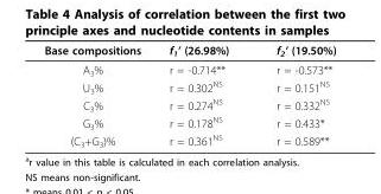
<table><thead><tr><td>Base compositions</td><td>f<sub>1</sub>’ (26.98%)</td><td>f<sub>2</sub>’ (19.50%)</td></tr></thead><tbody><tr><td>A<sub>3</sub>%</td><td>r = -0.714**</td><td>r = -0.573**</td></tr><tr><td>U<sub>3</sub>%</td><td>r = 0.302<sup>NS</sup></td><td>r = 0.151<sup>NS</sup></td></tr><tr><td>C<sub>3</sub>%</td><td>r = 0.274<sup>NS</sup></td><td>r = 0.332<sup>NS</sup></td></tr><tr><td>G<sub>3</sub>%</td><td>r = 0.178<sup>NS</sup></td><td>r = 0.433*</td></tr><tr><td>(C<sub>3</sub>+G<sub>3</sub>)%</td><td>r = 0.361<sup>NS</sup></td><td>r = 0.589**</td></tr></tbody></table>